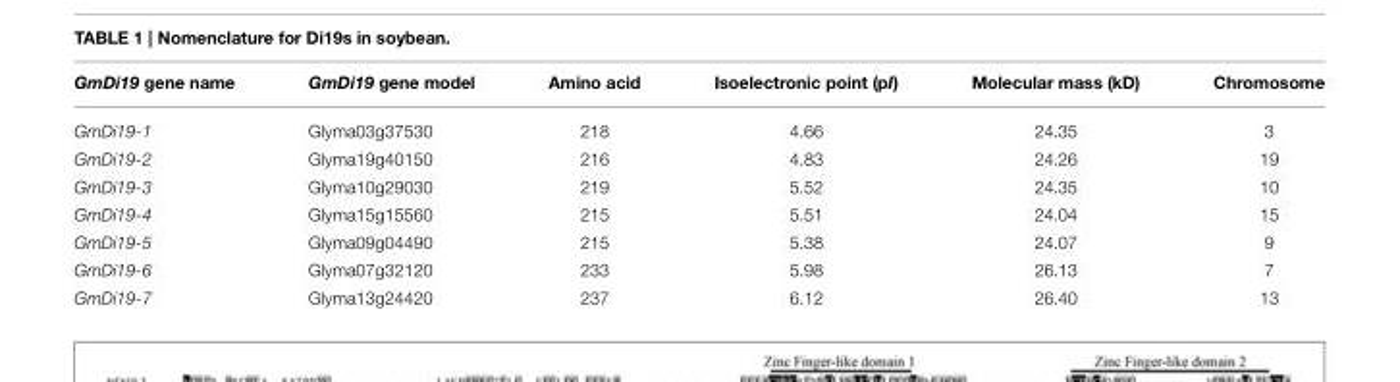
<table><thead><tr><td>GmDi19 gene name</td><td>GmDi19 gene model</td><td>Amino acid</td><td>Isoelectronic point (pI)</td><td>Molecular mass (kD)</td><td>Chromosome</td></tr></thead><tbody><tr><td>GmDi19-1</td><td>Glyma03g37530</td><td>218</td><td>4.66</td><td>24.35</td><td>3</td></tr><tr><td>GmDi19-2</td><td>Glyma19g40150</td><td>216</td><td>4.83</td><td>24.26</td><td>19</td></tr><tr><td>GmDi19-3</td><td>Glyma10g29030</td><td>219</td><td>5.52</td><td>24.35</td><td>10</td></tr><tr><td>GmDi19-4</td><td>Glyma15g15560</td><td>215</td><td>5.51</td><td>24.04</td><td>15</td></tr><tr><td>GmDi19-5</td><td>Glyma09g04490</td><td>215</td><td>5.38</td><td>24.07</td><td>9</td></tr><tr><td>GmDi19-6</td><td>Glyma07g32120</td><td>233</td><td>5.98</td><td>26.13</td><td>7</td></tr><tr><td>GmDi19-7</td><td>Glyma13g24420</td><td>237</td><td>6.12</td><td>26.40</td><td>13</td></tr></tbody></table>